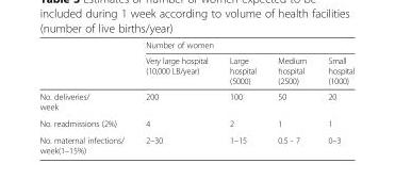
<table><thead><tr><td rowspan="2"></td><td colspan="4">Number of women</td></tr><tr><td>Very large hospital (10,000 LB/year)</td><td>Large hospital (5000)</td><td>Medium hospital (2500)</td><td>Small hospital (1000)</td></tr></thead><tbody><tr><td>No. deliveries/ week</td><td>200</td><td>100</td><td>50</td><td>20</td></tr><tr><td>No. readmissions (2%)</td><td>4</td><td>2</td><td>1</td><td>1</td></tr><tr><td>No. maternal infections/ week(1–15%)</td><td>2–30</td><td>1–15</td><td>0.5 - 7</td><td>0–3</td></tr></tbody></table>